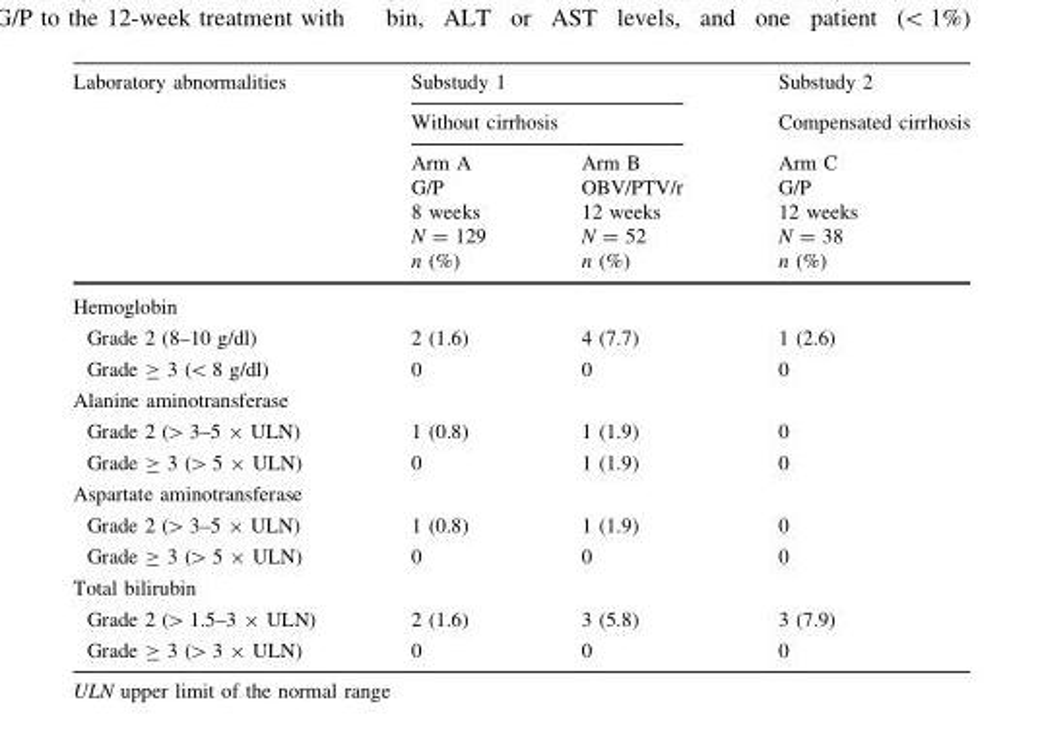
<table><thead><tr><td rowspan="7">Laboratory abnormalities</td><td rowspan="2" colspan="2">Substudy 1 Without cirrhosis</td><td rowspan="7">Substudy 2 Compensated cirrhosis Arm C G/P 12 weeks N = 38 n (%)</td></tr><tr></tr><tr><td rowspan="5">Arm A G/P 8 weeks N = 129 n (%)</td><td rowspan="5">Arm B OBV/PTV/r 12 weeks N = 52 n (%)</td></tr><tr></tr><tr></tr><tr></tr><tr></tr></thead><tbody><tr><td colspan="4">Hemoglobin</td></tr><tr><td>Grade 2 (8–10 g/dl)</td><td>2 (1.6)</td><td>4 (7.7)</td><td>1 (2.6)</td></tr><tr><td>Grade ≥ 3 (&lt; 8 g/dl)</td><td>0</td><td>0</td><td>0</td></tr><tr><td colspan="4">Alanine aminotransferase</td></tr><tr><td>Grade 2 (&gt; 3–5 × ULN)</td><td>1 (0.8)</td><td>1 (1.9)</td><td>0</td></tr><tr><td>Grade ≥ 3 (&gt; 5 × ULN)</td><td>0</td><td>1 (1.9)</td><td>0</td></tr><tr><td colspan="4">Aspartate aminotransferase</td></tr><tr><td>Grade 2 (&gt; 3–5 × ULN)</td><td>1 (0.8)</td><td>1 (1.9)</td><td>0</td></tr><tr><td>Grade ≥ 3 (&gt; 5 × ULN)</td><td>0</td><td>0</td><td>0</td></tr><tr><td colspan="4">Total bilirubin</td></tr><tr><td>Grade 2 (&gt; 1.5–3 × ULN)</td><td>2 (1.6)</td><td>3 (5.8)</td><td>3 (7.9)</td></tr><tr><td>Grade ≥ 3 (&gt; 3 × ULN)</td><td>0</td><td>0</td><td>0</td></tr></tbody></table>